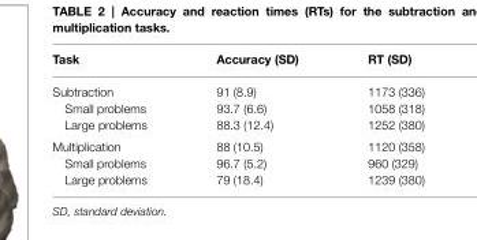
<table><thead><tr><td>Task</td><td>Accuracy (SD)</td><td>RT (SD)</td></tr></thead><tbody><tr><td>Subtraction</td><td>91 (8.9)</td><td>1173 (336)</td></tr><tr><td>Small problems</td><td>93.7 (6.6)</td><td>1058 (318)</td></tr><tr><td>Large problems</td><td>88.3 (12.4)</td><td>1252 (380)</td></tr><tr><td>Multiplication</td><td>88 (10.5)</td><td>1120 (358)</td></tr><tr><td>Small problems</td><td>96.7 (5.2)</td><td>960 (329)</td></tr><tr><td>Large problems</td><td>79 (18.4)</td><td>1239 (380)</td></tr></tbody></table>